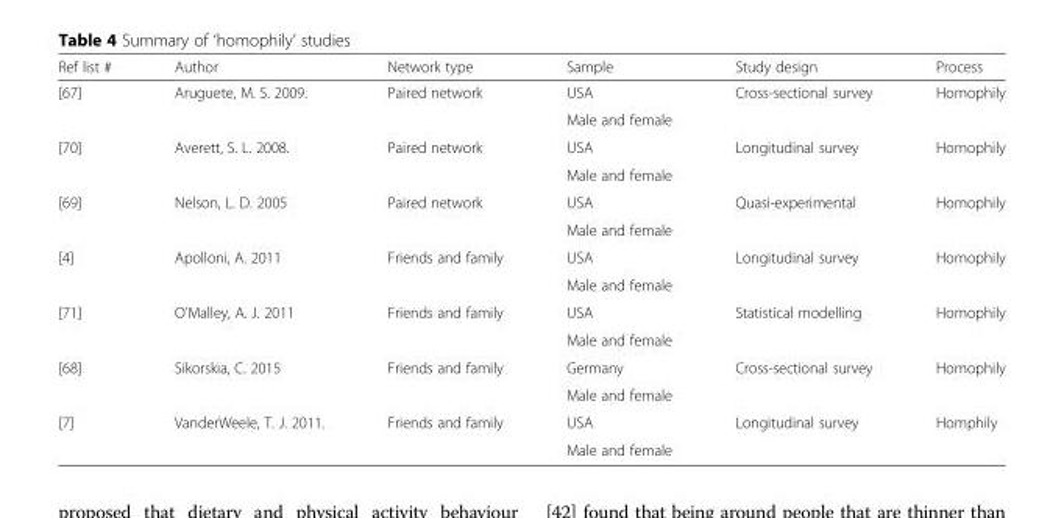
<table><thead><tr><td>Ref list #</td><td>Author</td><td>Network type</td><td>Sample</td><td>Study design</td><td>Process</td></tr></thead><tbody><tr><td rowspan="2">[67]</td><td rowspan="2">Aruguete, M. S. 2009.</td><td rowspan="2">Paired network</td><td>USA</td><td rowspan="2">Cross-sectional survey</td><td rowspan="2">Homophily</td></tr><tr><td>Male and female</td></tr><tr><td rowspan="2">[70]</td><td rowspan="2">Averett, S. L. 2008.</td><td rowspan="2">Paired network</td><td>USA</td><td rowspan="2">Longitudinal survey</td><td rowspan="2">Homophily</td></tr><tr><td>Male and female</td></tr><tr><td rowspan="2">[69]</td><td rowspan="2">Nelson, L. D. 2005</td><td rowspan="2">Paired network</td><td>USA</td><td rowspan="2">Quasi-experimental</td><td rowspan="2">Homophily</td></tr><tr><td>Male and female</td></tr><tr><td rowspan="2">[4]</td><td rowspan="2">Apolloni, A. 2011</td><td rowspan="2">Friends and family</td><td>USA</td><td rowspan="2">Longitudinal survey</td><td rowspan="2">Homophily</td></tr><tr><td>Male and female</td></tr><tr><td rowspan="2">[71]</td><td rowspan="2">O’Malley, A. J. 2011</td><td rowspan="2">Friends and family</td><td>USA</td><td rowspan="2">Statistical modelling</td><td rowspan="2">Homophily</td></tr><tr><td>Male and female</td></tr><tr><td rowspan="2">[68]</td><td rowspan="2">Sikorskia, C. 2015</td><td rowspan="2">Friends and family</td><td>Germany</td><td rowspan="2">Cross-sectional survey</td><td rowspan="2">Homophily</td></tr><tr><td>Male and female</td></tr><tr><td rowspan="2">[7]</td><td rowspan="2">VanderWeele, T. J. 2011.</td><td rowspan="2">Friends and family</td><td>USA</td><td rowspan="2">Longitudinal survey</td><td rowspan="2">Homphily</td></tr><tr><td>Male and female</td></tr></tbody></table>